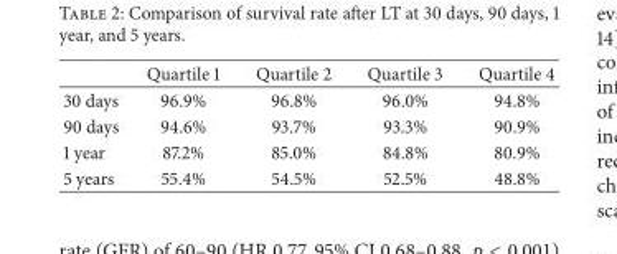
<table><thead><tr><td></td><td>Quartile 1</td><td>Quartile 2</td><td>Quartile 3</td><td>Quartile 4</td></tr></thead><tbody><tr><td>30 days</td><td>96.9%</td><td>96.8%</td><td>96.0%</td><td>94.8%</td></tr><tr><td>90 days</td><td>94.6%</td><td>93.7%</td><td>93.3%</td><td>90.9%</td></tr><tr><td>1 year</td><td>87.2%</td><td>85.0%</td><td>84.8%</td><td>80.9%</td></tr><tr><td>5 years</td><td>55.4%</td><td>54.5%</td><td>52.5%</td><td>48.8%</td></tr></tbody></table>